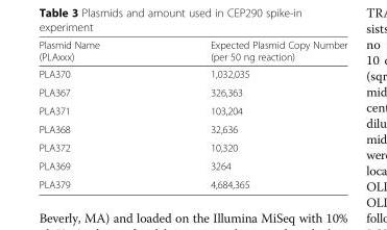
<table><thead><tr><td>Plasmid Name (PLAxxx)</td><td>Expected Plasmid Copy Number (per 50 ng reaction)</td></tr></thead><tbody><tr><td>PLA370</td><td>1,032,035</td></tr><tr><td>PLA367</td><td>326,363</td></tr><tr><td>PLA371</td><td>103,204</td></tr><tr><td>PLA368</td><td>32,636</td></tr><tr><td>PLA372</td><td>10,320</td></tr><tr><td>PLA369</td><td>3264</td></tr><tr><td>PLA379</td><td>4,684,365</td></tr></tbody></table>